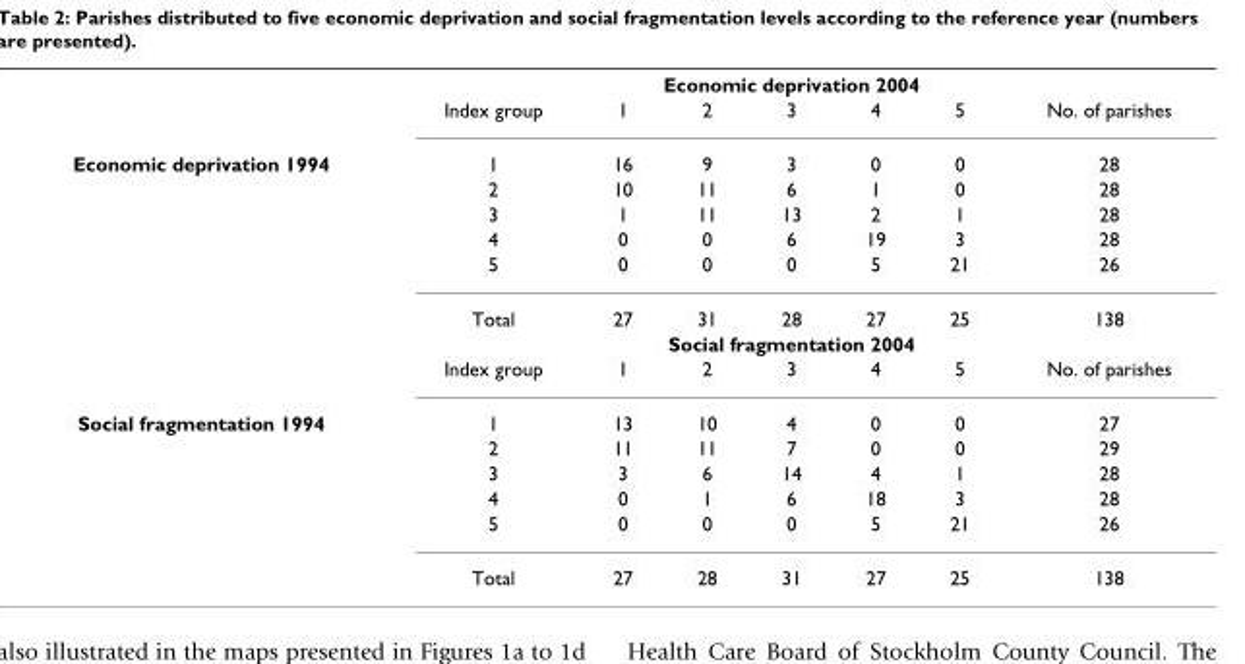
<table><thead><tr><td rowspan="2"></td><td rowspan="2">Index group</td><td colspan="5">Economic deprivation 2004</td><td rowspan="2">No. of parishes</td></tr><tr><td>1</td><td>2</td><td>3</td><td>4</td><td>5</td></tr></thead><tbody><tr><td rowspan="8">Economic deprivation 1994</td><td>1</td><td>16</td><td>9</td><td>3</td><td>0</td><td>0</td><td>28</td></tr><tr><td>2</td><td>10</td><td>11</td><td>6</td><td>1</td><td>0</td><td>28</td></tr><tr><td>3</td><td>1</td><td>11</td><td>13</td><td>2</td><td>1</td><td>28</td></tr><tr><td>4</td><td>0</td><td>0</td><td>6</td><td>19</td><td>3</td><td>28</td></tr><tr><td>5</td><td>0</td><td>0</td><td>0</td><td>5</td><td>21</td><td>26</td></tr><tr><td>Total</td><td>27</td><td>31</td><td>28</td><td>27</td><td>25</td><td>138</td></tr><tr><td></td><td colspan="5">Social fragmentation 2004</td><td></td></tr><tr><td>Index group</td><td>1</td><td>2</td><td>3</td><td>4</td><td>5</td><td>No. of parishes</td></tr><tr><td rowspan="6">Social fragmentation 1994</td><td>1</td><td>13</td><td>10</td><td>4</td><td>0</td><td>0</td><td>27</td></tr><tr><td>2</td><td>11</td><td>11</td><td>7</td><td>0</td><td>0</td><td>29</td></tr><tr><td>3</td><td>3</td><td>6</td><td>14</td><td>4</td><td>1</td><td>28</td></tr><tr><td>4</td><td>0</td><td>1</td><td>6</td><td>18</td><td>3</td><td>28</td></tr><tr><td>5</td><td>0</td><td>0</td><td>0</td><td>5</td><td>21</td><td>26</td></tr><tr><td>Total</td><td>27</td><td>28</td><td>31</td><td>27</td><td>25</td><td>138</td></tr></tbody></table>